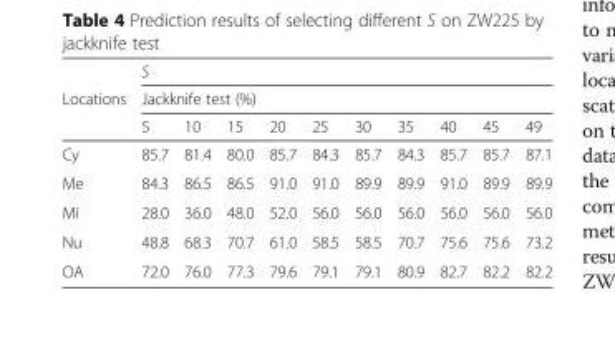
<table><thead><tr><td rowspan="3">Locations</td><td rowspan="2" colspan="10">S Jackknife test (%)</td></tr><tr></tr><tr><td>5</td><td>10</td><td>15</td><td>20</td><td>25</td><td>30</td><td>35</td><td>40</td><td>45</td><td>49</td></tr></thead><tbody><tr><td>Cy</td><td>85.7</td><td>81.4</td><td>80.0</td><td>85.7</td><td>84.3</td><td>85.7</td><td>84.3</td><td>85.7</td><td>85.7</td><td>87.1</td></tr><tr><td>Me</td><td>84.3</td><td>86.5</td><td>86.5</td><td>91.0</td><td>91.0</td><td>89.9</td><td>89.9</td><td>91.0</td><td>89.9</td><td>89.9</td></tr><tr><td>Mi</td><td>28.0</td><td>36.0</td><td>48.0</td><td>52.0</td><td>56.0</td><td>56.0</td><td>56.0</td><td>56.0</td><td>56.0</td><td>56.0</td></tr><tr><td>Nu</td><td>48.8</td><td>68.3</td><td>70.7</td><td>61.0</td><td>58.5</td><td>58.5</td><td>70.7</td><td>75.6</td><td>75.6</td><td>73.2</td></tr><tr><td>OA</td><td>72.0</td><td>76.0</td><td>77.3</td><td>79.6</td><td>79.1</td><td>79.1</td><td>80.9</td><td>82.7</td><td>82.2</td><td>82.2</td></tr></tbody></table>